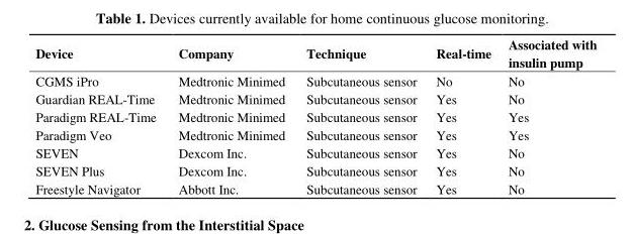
<table><thead><tr><td>Device</td><td>Company</td><td>Technique</td><td>Real-time</td><td>Associated with insulin pump</td></tr></thead><tbody><tr><td>CGMS iPro</td><td>Medtronic Minimed</td><td>Subcutaneous sensor</td><td>No</td><td>No</td></tr><tr><td>Guardian REAL-Time</td><td>Medtronic Minimed</td><td>Subcutaneous sensor</td><td>Yes</td><td>No</td></tr><tr><td>Paradigm REAL-Time</td><td>Medtronic Minimed</td><td>Subcutaneous sensor</td><td>Yes</td><td>Yes</td></tr><tr><td>Paradigm Veo</td><td>Medtronic Minimed</td><td>Subcutaneous sensor</td><td>Yes</td><td>Yes</td></tr><tr><td>SEVEN</td><td>Dexcom Inc.</td><td>Subcutaneous sensor</td><td>Yes</td><td>No</td></tr><tr><td>SEVEN Plus</td><td>Dexcom Inc.</td><td>Subcutaneous sensor</td><td>Yes</td><td>No</td></tr><tr><td>Freestyle Navigator</td><td>Abbott Inc.</td><td>Subcutaneous sensor</td><td>Yes</td><td>No</td></tr></tbody></table>